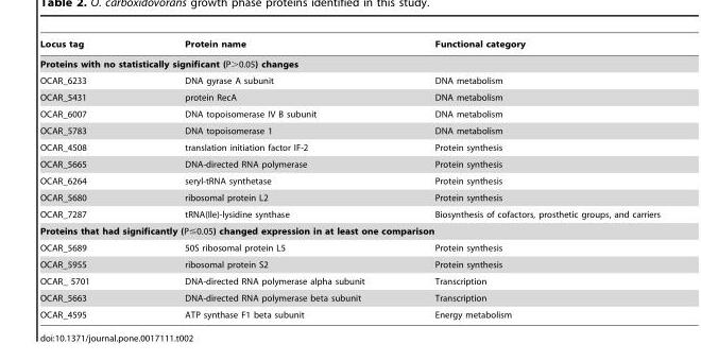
<table><thead><tr><td>Locus tag</td><td>Protein name</td><td>Functional category</td></tr></thead><tbody><tr><td colspan="3">Proteins with no statistically significant (P&gt;0.05) changes</td></tr><tr><td>OCAR_6233</td><td>DNA gyrase A subunit</td><td>DNA metabolism</td></tr><tr><td>OCAR_5431</td><td>protein RecA</td><td>DNA metabolism</td></tr><tr><td>OCAR_6007</td><td>DNA topoisomerase IV B subunit</td><td>DNA metabolism</td></tr><tr><td>OCAR_5783</td><td>DNA topoisomerase 1</td><td>DNA metabolism</td></tr><tr><td>OCAR_4508</td><td>translation initiation factor IF-2</td><td>Protein synthesis</td></tr><tr><td>OCAR_5665</td><td>DNA-directed RNA polymerase</td><td>Protein synthesis</td></tr><tr><td>OCAR_6264</td><td>seryl-tRNA synthetase</td><td>Protein synthesis</td></tr><tr><td>OCAR_5680</td><td>ribosomal protein L2</td><td>Protein synthesis</td></tr><tr><td>OCAR_7287</td><td>tRNA(Ile)-lysidine synthase</td><td>Biosynthesis of cofactors, prosthetic groups, and carriers</td></tr><tr><td colspan="3">Proteins that had significantly (P≤0.05) changed expression in at least one comparison</td></tr><tr><td>OCAR_5689</td><td>50S ribosomal protein L5</td><td>Protein synthesis</td></tr><tr><td>OCAR_5955</td><td>ribosomal protein S2</td><td>Protein synthesis</td></tr><tr><td>OCAR_ 5701</td><td>DNA-directed RNA polymerase alpha subunit</td><td>Transcription</td></tr><tr><td>OCAR_5663</td><td>DNA-directed RNA polymerase beta subunit</td><td>Transcription</td></tr><tr><td>OCAR_4595</td><td>ATP synthase F1 beta subunit</td><td>Energy metabolism</td></tr></tbody></table>